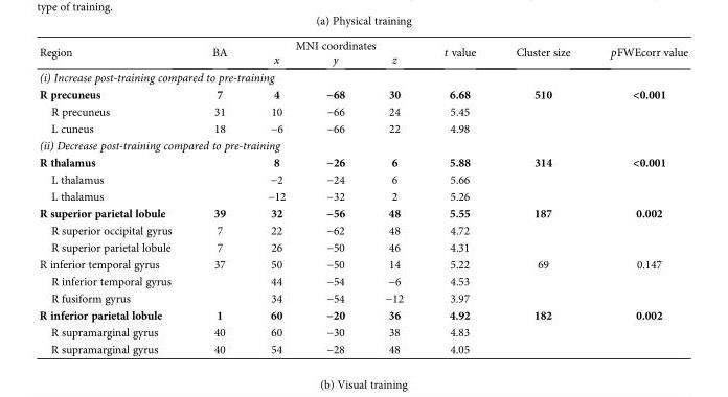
<table><thead><tr><td rowspan="2">Region</td><td rowspan="2">BA</td><td colspan="3">MNI coordinates</td><td rowspan="2">t value</td><td rowspan="2">Cluster size</td><td rowspan="2">pFWEcorr value</td></tr><tr><td>x</td><td>y</td><td>z</td></tr></thead><tbody><tr><td colspan="8">(i) Increase post-training compared to pre-training</td></tr><tr><td>R precuneus</td><td>7</td><td>4</td><td>−68</td><td>30</td><td>6.68</td><td>510</td><td>&lt;0.001</td></tr><tr><td>R precuneus</td><td>31</td><td>10</td><td>−66</td><td>24</td><td>5.45</td><td></td><td></td></tr><tr><td>L cuneus</td><td>18</td><td>−6</td><td>−66</td><td>22</td><td>4.98</td><td></td><td></td></tr><tr><td colspan="8">(ii) Decrease post-training compared to pre-training</td></tr><tr><td>R thalamus</td><td></td><td>8</td><td>−26</td><td>6</td><td>5.88</td><td>314</td><td>&lt;0.001</td></tr><tr><td>L thalamus</td><td></td><td>−2</td><td>−24</td><td>6</td><td>5.66</td><td></td><td></td></tr><tr><td>L thalamus</td><td></td><td>−12</td><td>−32</td><td>2</td><td>5.26</td><td></td><td></td></tr><tr><td>R superior parietal lobule</td><td>39</td><td>32</td><td>−56</td><td>48</td><td>5.55</td><td>187</td><td>0.002</td></tr><tr><td>R superior occipital gyrus</td><td>7</td><td>22</td><td>−62</td><td>48</td><td>4.72</td><td></td><td></td></tr><tr><td>R superior parietal lobule</td><td>7</td><td>26</td><td>−50</td><td>46</td><td>4.31</td><td></td><td></td></tr><tr><td>R inferior temporal gyrus</td><td>37</td><td>50</td><td>−50</td><td>14</td><td>5.22</td><td>69</td><td>0.147</td></tr><tr><td>R inferior temporal gyrus</td><td></td><td>44</td><td>−54</td><td>−6</td><td>4.53</td><td></td><td></td></tr><tr><td>R fusiform gyrus</td><td></td><td>34</td><td>−54</td><td>−12</td><td>3.97</td><td></td><td></td></tr><tr><td>R inferior parietal lobule</td><td>1</td><td>60</td><td>−20</td><td>36</td><td>4.92</td><td>182</td><td>0.002</td></tr><tr><td>R supramarginal gyrus</td><td>40</td><td>60</td><td>−30</td><td>38</td><td>4.83</td><td></td><td></td></tr><tr><td>R supramarginal gyrus</td><td>40</td><td>54</td><td>−28</td><td>48</td><td>4.05</td><td></td><td></td></tr></tbody></table>